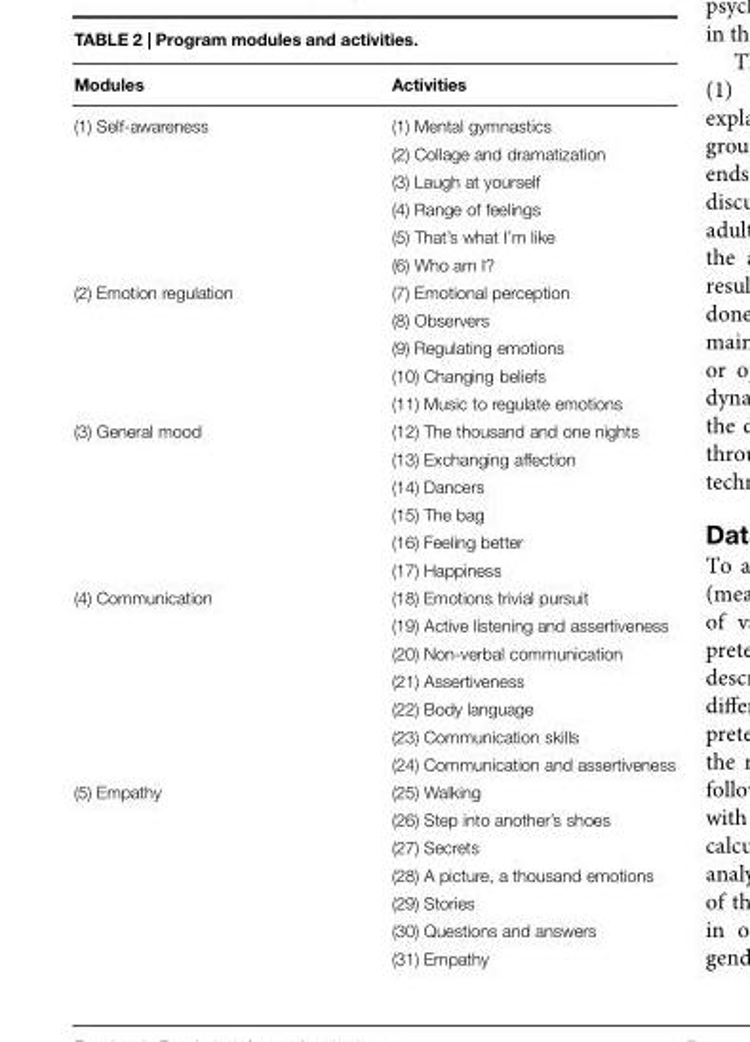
<table><thead><tr><td>Modules</td><td>Activities</td></tr></thead><tbody><tr><td rowspan="6">(1) Self-awareness</td><td>(1) Mental gymnastics</td></tr><tr><td>(2) Collage and dramatization</td></tr><tr><td>(3) Laugh at yourself</td></tr><tr><td>(4) Range of feelings</td></tr><tr><td>(5) That’s what I’m like</td></tr><tr><td>(6) Who am I?</td></tr><tr><td rowspan="5">(2) Emotion regulation</td><td>(7) Emotional perception</td></tr><tr><td>(8) Observers</td></tr><tr><td>(9) Regulating emotions</td></tr><tr><td>(10) Changing beliefs</td></tr><tr><td>(11) Music to regulate emotions</td></tr><tr><td rowspan="6">(3) General mood</td><td>(12) The thousand and one nights</td></tr><tr><td>(13) Exchanging affection</td></tr><tr><td>(14) Dancers</td></tr><tr><td>(15) The bag</td></tr><tr><td>(16) Feeling better</td></tr><tr><td>(17) Happiness</td></tr><tr><td rowspan="7">(4) Communication</td><td>(18) Emotions trivial pursuit</td></tr><tr><td>(19) Active listening and assertiveness</td></tr><tr><td>(20) Non-verbal communication</td></tr><tr><td>(21) Assertiveness</td></tr><tr><td>(22) Body language</td></tr><tr><td>(23) Communication skills</td></tr><tr><td>(24) Communication and assertiveness</td></tr><tr><td rowspan="7">(5) Empathy</td><td>(25) Walking</td></tr><tr><td>(26) Step into another’s shoes</td></tr><tr><td>(27) Secrets</td></tr><tr><td>(28) A picture, a thousand emotions</td></tr><tr><td>(29) Stories</td></tr><tr><td>(30) Questions and answers</td></tr><tr><td>(31) Empathy</td></tr></tbody></table>